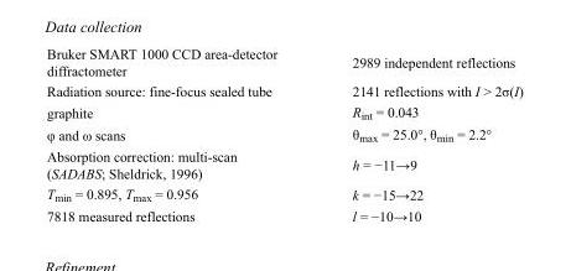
<table><tbody><tr><td>Bruker SMART 1000 CCD area-detector diffractometer</td><td>2989 independent reflections</td></tr><tr><td>Radiation source: fine-focus sealed tube</td><td>2141 reflections with I &gt; 2σ(I)</td></tr><tr><td>graphite</td><td>R<sub>int</sub> = 0.043</td></tr><tr><td>φ and ω scans</td><td>θ<sub>max</sub> = 25.0°, θ<sub>min</sub> = 2.2°</td></tr><tr><td>Absorption correction: multi-scan (SADABS; Sheldrick, 1996)</td><td>h = −11→9</td></tr><tr><td>T<sub>min</sub> = 0.895, T<sub>max</sub> = 0.956</td><td>k = −15→22</td></tr><tr><td>7818 measured reflections</td><td>l = −10→10</td></tr></tbody></table>